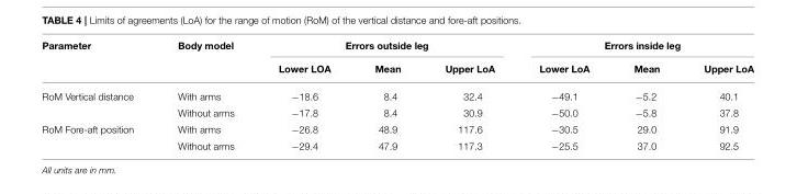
<table><thead><tr><td rowspan="2">Parameter</td><td rowspan="2">Body model</td><td colspan="3">Errors outside leg</td><td colspan="3">Errors inside leg</td></tr><tr><td>Lower LOA</td><td>Mean</td><td>Upper LoA</td><td>Lower LoA</td><td>Mean</td><td>Upper LoA</td></tr></thead><tbody><tr><td rowspan="2">RoM Vertical distance</td><td>With arms</td><td>−18.6</td><td>8.4</td><td>32.4</td><td>−49.1</td><td>−5.2</td><td>40.1</td></tr><tr><td>Without arms</td><td>−17.8</td><td>8.4</td><td>30.9</td><td>−50.0</td><td>−5.8</td><td>37.8</td></tr><tr><td rowspan="2">RoM Fore-aft position</td><td>With arms</td><td>−26.8</td><td>48.9</td><td>117.6</td><td>−30.5</td><td>29.0</td><td>91.9</td></tr><tr><td>Without arms</td><td>−29.4</td><td>47.9</td><td>117.3</td><td>−25.5</td><td>37.0</td><td>92.5</td></tr></tbody></table>